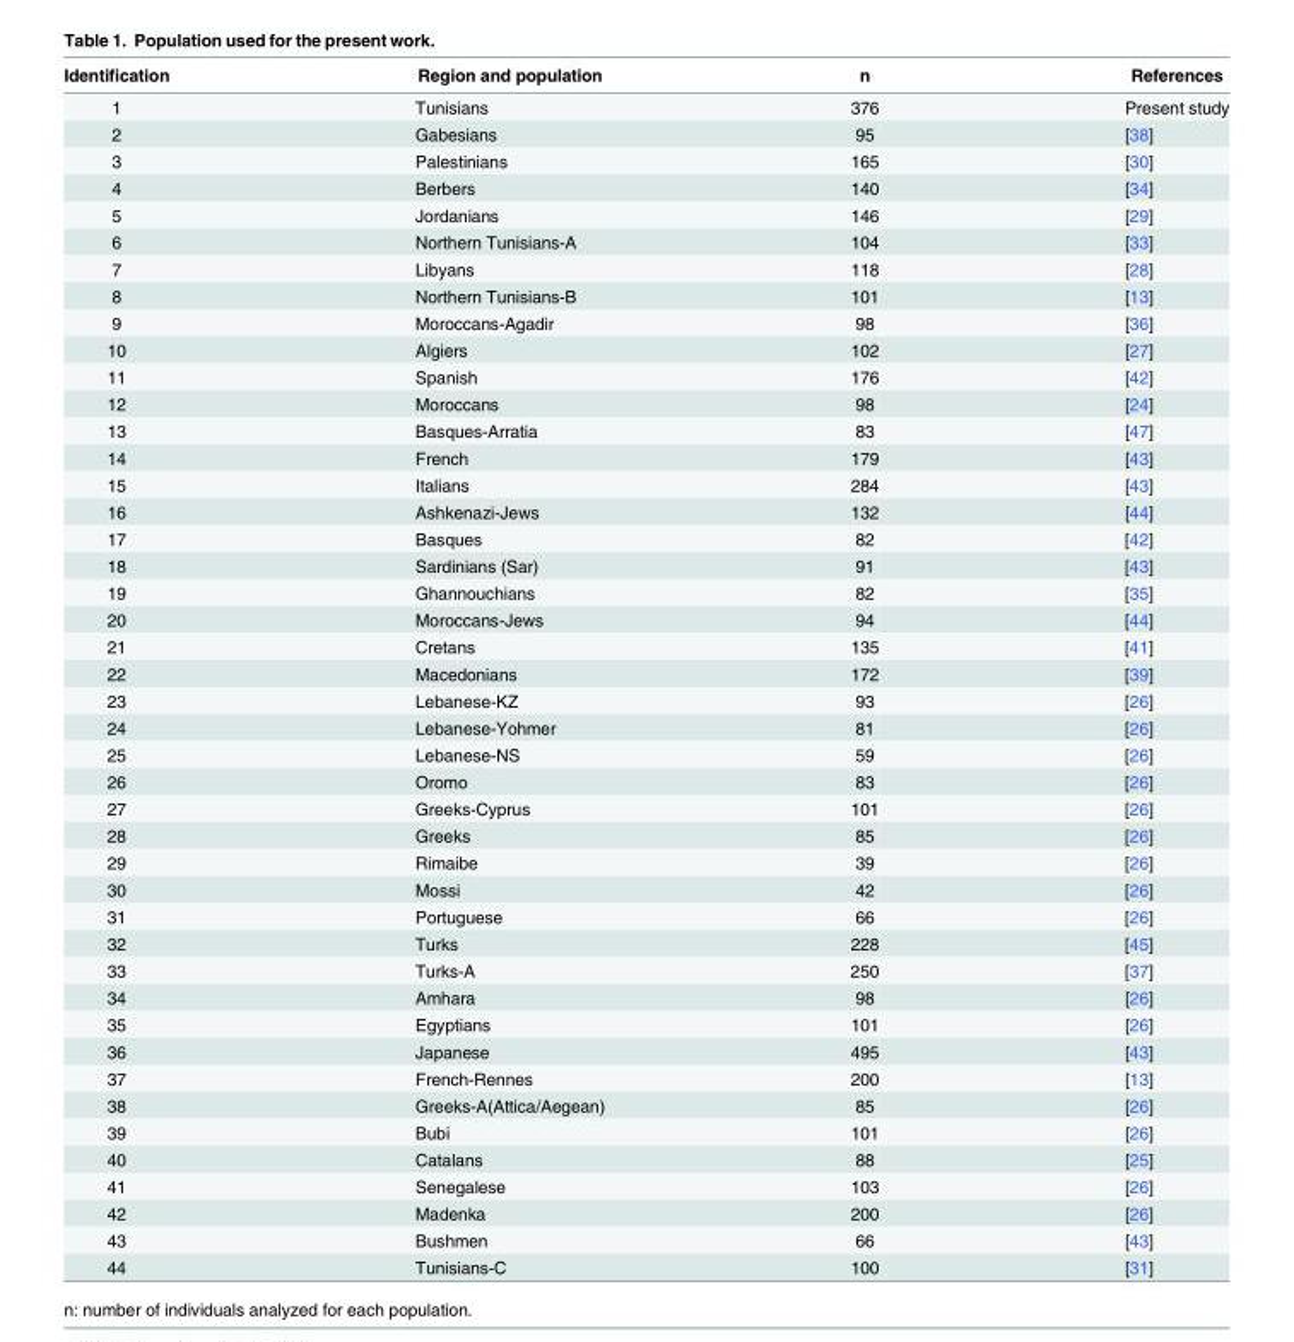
<table><thead><tr><td>Identification</td><td>Region and population</td><td>n</td><td>References</td></tr></thead><tbody><tr><td>1</td><td>Tunisians</td><td>376</td><td>Present study</td></tr><tr><td>2</td><td>Gabesians</td><td>95</td><td>[38]</td></tr><tr><td>3</td><td>Palestinians</td><td>165</td><td>[30]</td></tr><tr><td>4</td><td>Berbers</td><td>140</td><td>[34]</td></tr><tr><td>5</td><td>Jordanians</td><td>146</td><td>[29]</td></tr><tr><td>6</td><td>Northern Tunisians-A</td><td>104</td><td>[33]</td></tr><tr><td>7</td><td>Libyans</td><td>118</td><td>[28]</td></tr><tr><td>8</td><td>Northern Tunisians-B</td><td>101</td><td>[13]</td></tr><tr><td>9</td><td>Moroccans-Agadir</td><td>98</td><td>[36]</td></tr><tr><td>10</td><td>Algiers</td><td>102</td><td>[27]</td></tr><tr><td>11</td><td>Spanish</td><td>176</td><td>[42]</td></tr><tr><td>12</td><td>Moroccans</td><td>98</td><td>[24]</td></tr><tr><td>13</td><td>Basques-Arratia</td><td>83</td><td>[47]</td></tr><tr><td>14</td><td>French</td><td>179</td><td>[43]</td></tr><tr><td>15</td><td>Italians</td><td>284</td><td>[43]</td></tr><tr><td>16</td><td>Ashkenazi-Jews</td><td>132</td><td>[44]</td></tr><tr><td>17</td><td>Basques</td><td>82</td><td>[42]</td></tr><tr><td>18</td><td>Sardinians (Sar)</td><td>91</td><td>[43]</td></tr><tr><td>19</td><td>Ghannouchians</td><td>82</td><td>[35]</td></tr><tr><td>20</td><td>Moroccans-Jews</td><td>94</td><td>[44]</td></tr><tr><td>21</td><td>Cretans</td><td>135</td><td>[41]</td></tr><tr><td>22</td><td>Macedonians</td><td>172</td><td>[39]</td></tr><tr><td>23</td><td>Lebanese-KZ</td><td>93</td><td>[26]</td></tr><tr><td>24</td><td>Lebanese-Yohmer</td><td>81</td><td>[26]</td></tr><tr><td>25</td><td>Lebanese-NS</td><td>59</td><td>[26]</td></tr><tr><td>26</td><td>Oromo</td><td>83</td><td>[26]</td></tr><tr><td>27</td><td>Greeks-Cyprus</td><td>101</td><td>[26]</td></tr><tr><td>28</td><td>Greeks</td><td>85</td><td>[26]</td></tr><tr><td>29</td><td>Rimaibe</td><td>39</td><td>[26]</td></tr><tr><td>30</td><td>Mossi</td><td>42</td><td>[26]</td></tr><tr><td>31</td><td>Portuguese</td><td>66</td><td>[26]</td></tr><tr><td>32</td><td>Turks</td><td>228</td><td>[45]</td></tr><tr><td>33</td><td>Turks-A</td><td>250</td><td>[37]</td></tr><tr><td>34</td><td>Amhara</td><td>98</td><td>[26]</td></tr><tr><td>35</td><td>Egyptians</td><td>101</td><td>[26]</td></tr><tr><td>36</td><td>Japanese</td><td>495</td><td>[43]</td></tr><tr><td>37</td><td>French-Rennes</td><td>200</td><td>[13]</td></tr><tr><td>38</td><td>Greeks-A(Attica/Aegean)</td><td>85</td><td>[26]</td></tr><tr><td>39</td><td>Bubi</td><td>101</td><td>[26]</td></tr><tr><td>40</td><td>Catalans</td><td>88</td><td>[25]</td></tr><tr><td>41</td><td>Senegalese</td><td>103</td><td>[26]</td></tr><tr><td>42</td><td>Madenka</td><td>200</td><td>[26]</td></tr><tr><td>43</td><td>Bushmen</td><td>66</td><td>[43]</td></tr><tr><td>44</td><td>Tunisians-C</td><td>100</td><td>[31]</td></tr></tbody></table>